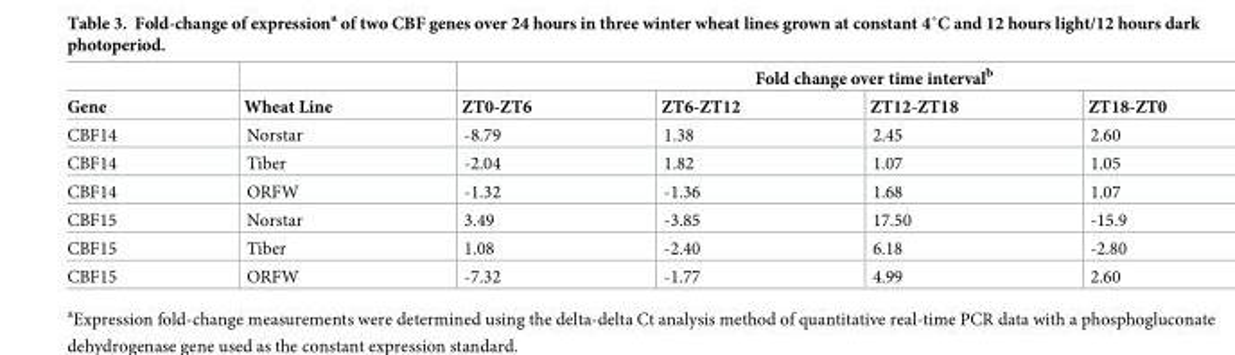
<table><thead><tr><td rowspan="2">Gene</td><td rowspan="2">Wheat Line</td><td colspan="4">Fold change over time interval<sup>b</sup></td></tr><tr><td>ZT0-ZT6</td><td>ZT6-ZT12</td><td>ZT12-ZT18</td><td>ZT18-ZT0</td></tr></thead><tbody><tr><td>CBF14</td><td>Norstar</td><td>-8.79</td><td>1.38</td><td>2.45</td><td>2.60</td></tr><tr><td>CBF14</td><td>Tiber</td><td>-2.04</td><td>1.82</td><td>1.07</td><td>1.05</td></tr><tr><td>CBF14</td><td>ORFW</td><td>-1.32</td><td>-1.36</td><td>1.68</td><td>1.07</td></tr><tr><td>CBF15</td><td>Norstar</td><td>3.49</td><td>-3.85</td><td>17.50</td><td>-15.9</td></tr><tr><td>CBF15</td><td>Tiber</td><td>1.08</td><td>-2.40</td><td>6.18</td><td>-2.80</td></tr><tr><td>CBF15</td><td>ORFW</td><td>-7.32</td><td>-1.77</td><td>4.99</td><td>2.60</td></tr></tbody></table>